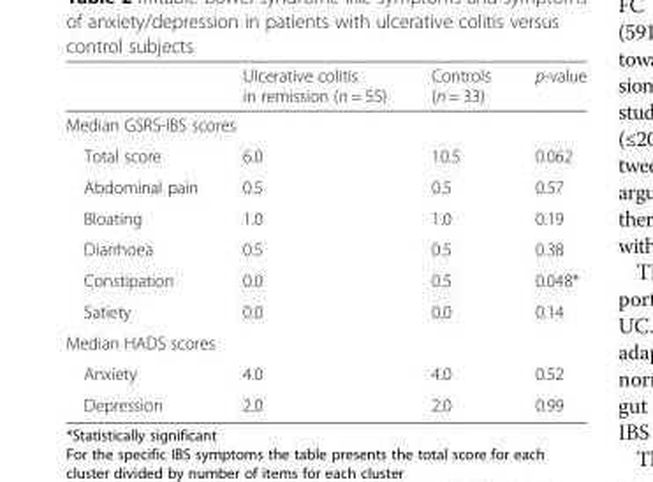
<table><thead><tr><td></td><td>Ulcerative colitis in remission (n = 55)</td><td>Controls (n = 33)</td><td>p-value</td></tr></thead><tbody><tr><td colspan="4">Median GSRS-IBS scores</td></tr><tr><td>Total score</td><td>6.0</td><td>10.5</td><td>0.062</td></tr><tr><td>Abdominal pain</td><td>0.5</td><td>0.5</td><td>0.57</td></tr><tr><td>Bloating</td><td>1.0</td><td>1.0</td><td>0.19</td></tr><tr><td>Diarrhoea</td><td>0.5</td><td>0.5</td><td>0.38</td></tr><tr><td>Constipation</td><td>0.0</td><td>0.5</td><td>0.048*</td></tr><tr><td>Satiety</td><td>0.0</td><td>0.0</td><td>0.14</td></tr><tr><td colspan="4">Median HADS scores</td></tr><tr><td>Anxiety</td><td>4.0</td><td>4.0</td><td>0.52</td></tr><tr><td>Depression</td><td>2.0</td><td>2.0</td><td>0.99</td></tr></tbody></table>